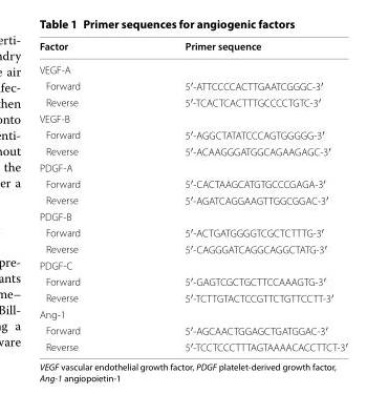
<table><thead><tr><td>Factor</td><td>Primer sequence</td></tr></thead><tbody><tr><td colspan="2">VEGF-A</td></tr><tr><td>Forward</td><td>5′-ATTCCCCACTTGAATCGGGC-3′</td></tr><tr><td>Reverse</td><td>5′-TCACTCACTTTGCCCCTGTC-3′</td></tr><tr><td colspan="2">VEGF-B</td></tr><tr><td>Forward</td><td>5′-AGGCTATATCCCAGTGGGGG-3′</td></tr><tr><td>Reverse</td><td>5′-ACAAGGGATGGCAGAAGAGC-3′</td></tr><tr><td colspan="2">PDGF-A</td></tr><tr><td>Forward</td><td>5′-CACTAAGCATGTGCCCGAGA-3′</td></tr><tr><td>Reverse</td><td>5′-AGATCAGGAAGTTGGCGGAC-3′</td></tr><tr><td colspan="2">PDGF-B</td></tr><tr><td>Forward</td><td>5′-ACTGATGGGGTCGCTCTTTG-3′</td></tr><tr><td>Reverse</td><td>5′-CAGGGATCAGGCAGGCTATG-3′</td></tr><tr><td colspan="2">PDGF-C</td></tr><tr><td>Forward</td><td>5′-GAGTCGCTGCTTCCAAAGTG-3′</td></tr><tr><td>Reverse</td><td>5′-TCTTGTACTCCGTTCTGTTCCTT-3′</td></tr><tr><td colspan="2">Ang-1</td></tr><tr><td>Forward</td><td>5′-AGCAACTGGAGCTGATGGAC-3′</td></tr><tr><td>Reverse</td><td>5′-TCCTCCCTTTAGTAAAACACCTTCT-3′</td></tr></tbody></table>